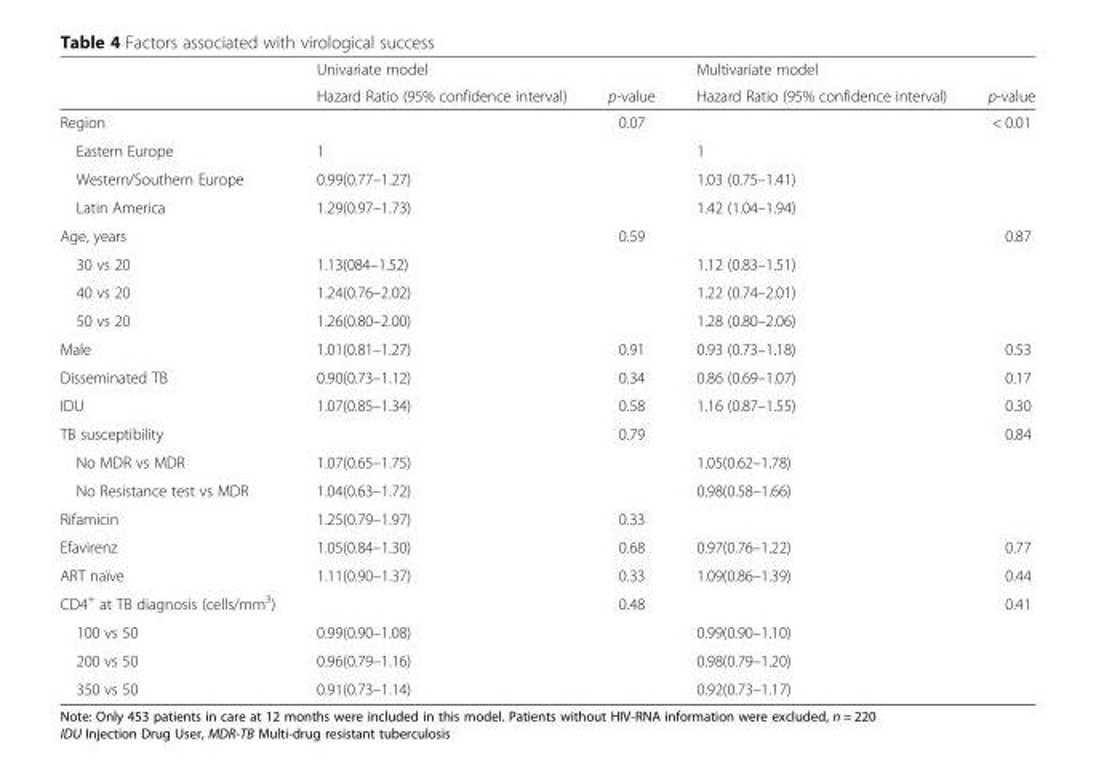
<table><thead><tr><td rowspan="2"></td><td rowspan="2">Univariate model Hazard Ratio (95% confidence interval)</td><td rowspan="2">p-value</td><td rowspan="2">Multivariate model Hazard Ratio (95% confidence interval)</td><td rowspan="2">p-value</td></tr><tr></tr></thead><tbody><tr><td>Region</td><td></td><td>0.07</td><td></td><td>&lt; 0.01</td></tr><tr><td>Eastern Europe</td><td>1</td><td></td><td>1</td><td></td></tr><tr><td>Western/Southern Europe</td><td>0.99(0.77–1.27)</td><td></td><td>1.03 (0.75–1.41)</td><td></td></tr><tr><td>Latin America</td><td>1.29(0.97–1.73)</td><td></td><td>1.42 (1.04–1.94)</td><td></td></tr><tr><td>Age, years</td><td></td><td>0.59</td><td></td><td>0.87</td></tr><tr><td>30 vs 20</td><td>1.13(084–1.52)</td><td></td><td>1.12 (0.83–1.51)</td><td></td></tr><tr><td>40 vs 20</td><td>1.24(0.76–2.02)</td><td></td><td>1.22 (0.74–2.01)</td><td></td></tr><tr><td>50 vs 20</td><td>1.26(0.80–2.00)</td><td></td><td>1.28 (0.80–2.06)</td><td></td></tr><tr><td>Male</td><td>1.01(0.81–1.27)</td><td>0.91</td><td>0.93 (0.73–1.18)</td><td>0.53</td></tr><tr><td>Disseminated TB</td><td>0.90(0.73–1.12)</td><td>0.34</td><td>0.86 (0.69–1.07)</td><td>0.17</td></tr><tr><td>IDU</td><td>1.07(0.85–1.34)</td><td>0.58</td><td>1.16 (0.87–1.55)</td><td>0.30</td></tr><tr><td>TB susceptibility</td><td></td><td>0.79</td><td></td><td>0.84</td></tr><tr><td>No MDR vs MDR</td><td>1.07(0.65–1.75)</td><td></td><td>1.05(0.62–1.78)</td><td></td></tr><tr><td>No Resistance test vs MDR</td><td>1.04(0.63–1.72)</td><td></td><td>0.98(0.58–1.66)</td><td></td></tr><tr><td>Rifamicin</td><td>1.25(0.79–1.97)</td><td>0.33</td><td></td><td></td></tr><tr><td>Efavirenz</td><td>1.05(0.84–1.30)</td><td>0.68</td><td>0.97(0.76–1.22)</td><td>0.77</td></tr><tr><td>ART naïve</td><td>1.11(0.90–1.37)</td><td>0.33</td><td>1.09(0.86–1.39)</td><td>0.44</td></tr><tr><td>CD4<sup>+</sup> at TB diagnosis (cells/mm<sup>3</sup>)</td><td></td><td>0.48</td><td></td><td>0.41</td></tr><tr><td>100 vs 50</td><td>0.99(0.90–1.08)</td><td></td><td>0.99(0.90–1.10)</td><td></td></tr><tr><td>200 vs 50</td><td>0.96(0.79–1.16)</td><td></td><td>0.98(0.79–1.20)</td><td></td></tr><tr><td>350 vs 50</td><td>0.91(0.73–1.14)</td><td></td><td>0.92(0.73–1.17)</td><td></td></tr></tbody></table>